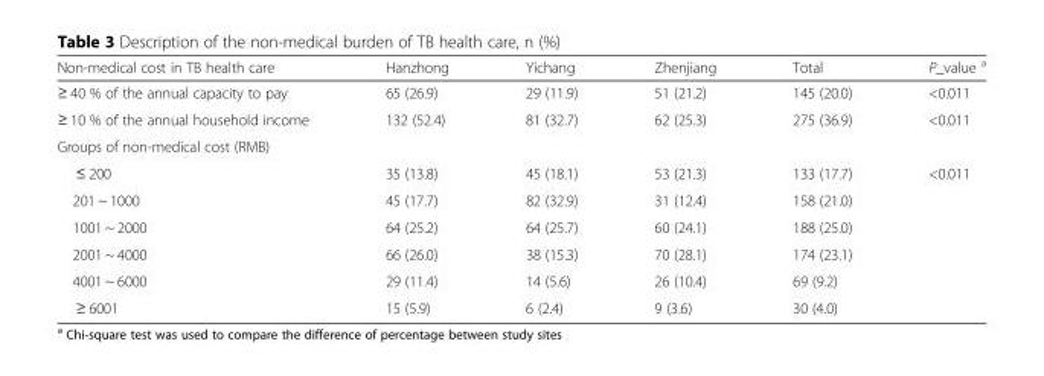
<table><thead><tr><td>Non-medical cost in TB health care</td><td>Hanzhong</td><td>Yichang</td><td>Zhenjiang</td><td>Total</td><td>P_value <sup>a</sup></td></tr></thead><tbody><tr><td>≥ 40 % of the annual capacity to pay</td><td>65 (26.9)</td><td>29 (11.9)</td><td>51 (21.2)</td><td>145 (20.0)</td><td>&lt;0.011</td></tr><tr><td>≥ 10 % of the annual household income</td><td>132 (52.4)</td><td>81 (32.7)</td><td>62 (25.3)</td><td>275 (36.9)</td><td>&lt;0.011</td></tr><tr><td colspan="6">Groups of non-medical cost (RMB)</td></tr><tr><td>≤ 200</td><td>35 (13.8)</td><td>45 (18.1)</td><td>53 (21.3)</td><td>133 (17.7)</td><td>&lt;0.011</td></tr><tr><td>201 ~ 1000</td><td>45 (17.7)</td><td>82 (32.9)</td><td>31 (12.4)</td><td>158 (21.0)</td><td></td></tr><tr><td>1001 ~ 2000</td><td>64 (25.2)</td><td>64 (25.7)</td><td>60 (24.1)</td><td>188 (25.0)</td><td></td></tr><tr><td>2001 ~ 4000</td><td>66 (26.0)</td><td>38 (15.3)</td><td>70 (28.1)</td><td>174 (23.1)</td><td></td></tr><tr><td>4001 ~ 6000</td><td>29 (11.4)</td><td>14 (5.6)</td><td>26 (10.4)</td><td>69 (9.2)</td><td></td></tr><tr><td>≥ 6001</td><td>15 (5.9)</td><td>6 (2.4)</td><td>9 (3.6)</td><td>30 (4.0)</td><td></td></tr></tbody></table>